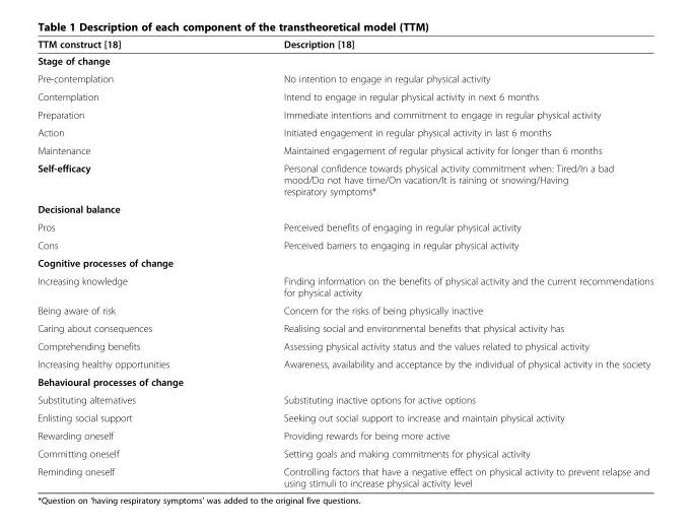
<table><thead><tr><td>TTM construct [18]</td><td>Description [18]</td></tr></thead><tbody><tr><td colspan="2">Stage of change</td></tr><tr><td>Pre-contemplation</td><td>No intention to engage in regular physical activity</td></tr><tr><td>Contemplation</td><td>Intend to engage in regular physical activity in next 6 months</td></tr><tr><td>Preparation</td><td>Immediate intentions and commitment to engage in regular physical activity</td></tr><tr><td>Action</td><td>Initiated engagement in regular physical activity in last 6 months</td></tr><tr><td>Maintenance</td><td>Maintained engagement of regular physical activity for longer than 6 months</td></tr><tr><td>Self-efficacy</td><td>Personal confidence towards physical activity commitment when: Tired/In a bad mood/Do not have time/On vacation/It is raining or snowing/Having respiratory symptoms*</td></tr><tr><td colspan="2">Decisional balance</td></tr><tr><td>Pros</td><td>Perceived benefits of engaging in regular physical activity</td></tr><tr><td>Cons</td><td>Perceived barriers to engaging in regular physical activity</td></tr><tr><td colspan="2">Cognitive processes of change</td></tr><tr><td>Increasing knowledge</td><td>Finding information on the benefits of physical activity and the current recommendations for physical activity</td></tr><tr><td>Being aware of risk</td><td>Concern for the risks of being physically inactive</td></tr><tr><td>Caring about consequences</td><td>Realising social and environmental benefits that physical activity has</td></tr><tr><td>Comprehending benefits</td><td>Assessing physical activity status and the values related to physical activity</td></tr><tr><td>Increasing healthy opportunities</td><td>Awareness, availability and acceptance by the individual of physical activity in the society</td></tr><tr><td colspan="2">Behavioural processes of change</td></tr><tr><td>Substituting alternatives</td><td>Substituting inactive options for active options</td></tr><tr><td>Enlisting social support</td><td>Seeking out social support to increase and maintain physical activity</td></tr><tr><td>Rewarding oneself</td><td>Providing rewards for being more active</td></tr><tr><td>Committing oneself</td><td>Setting goals and making commitments for physical activity</td></tr><tr><td>Reminding oneself</td><td>Controlling factors that have a negative effect on physical activity to prevent relapse and using stimuli to increase physical activity level</td></tr></tbody></table>